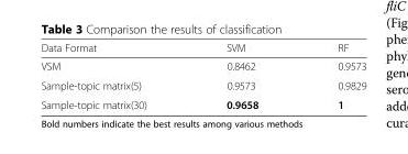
<table><thead><tr><td>Data Format</td><td>SVM</td><td>RF</td></tr></thead><tbody><tr><td>VSM</td><td>0.8462</td><td>0.9573</td></tr><tr><td>Sample-topic matrix(5)</td><td>0.9573</td><td>0.9829</td></tr><tr><td>Sample-topic matrix(30)</td><td>0.9658</td><td>1</td></tr></tbody></table>